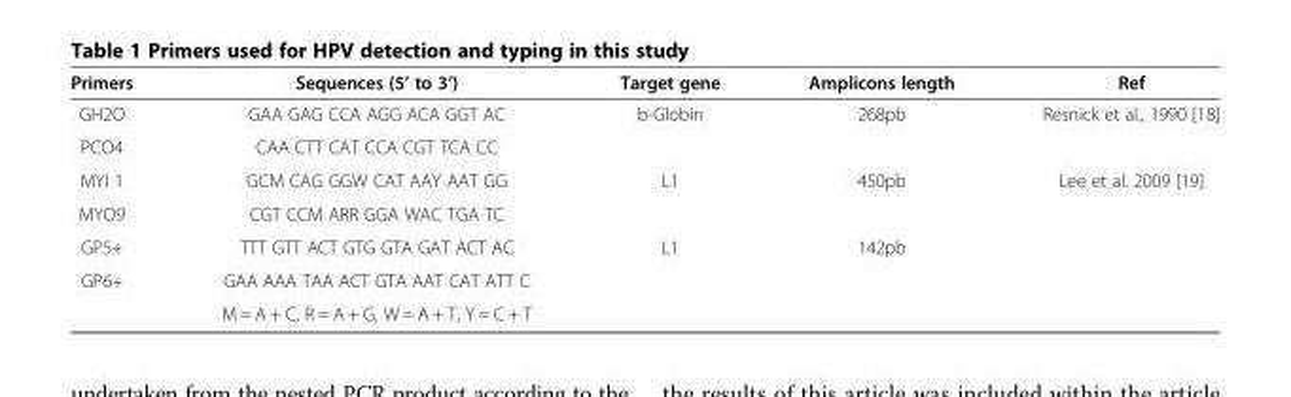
<table><thead><tr><td>Primers</td><td>Sequences (5’ to 3’)</td><td>Target gene</td><td>Amplicons length</td><td>Ref</td></tr></thead><tbody><tr><td>GH2O</td><td>GAA GAG CCA AGG ACA GGT AC</td><td rowspan="2">b-Globin</td><td rowspan="2">268pb</td><td rowspan="2">Resnick et al., 1990 [18]</td></tr><tr><td>PCO4</td><td>CAA CTT CAT CCA CGT TCA CC</td></tr><tr><td>MYI 1</td><td>GCM CAG GGW CAT AAY AAT GG</td><td rowspan="2">L1</td><td rowspan="2">450pb</td><td rowspan="4">Lee et al. 2009 [19]</td></tr><tr><td>MYO9</td><td>CGT CCM ARR GGA WAC TGA TC</td></tr><tr><td>GP5+</td><td>TTT GTT ACT GTG GTA GAT ACT AC</td><td rowspan="2">L1</td><td rowspan="2">142pb</td></tr><tr><td rowspan="2">GP6+</td><td>GAA AAA TAA ACT GTA AAT CAT ATT C</td></tr><tr><td>M = A + C, R = A + G, W = A + T, Y = C + T</td><td></td><td></td><td></td></tr></tbody></table>